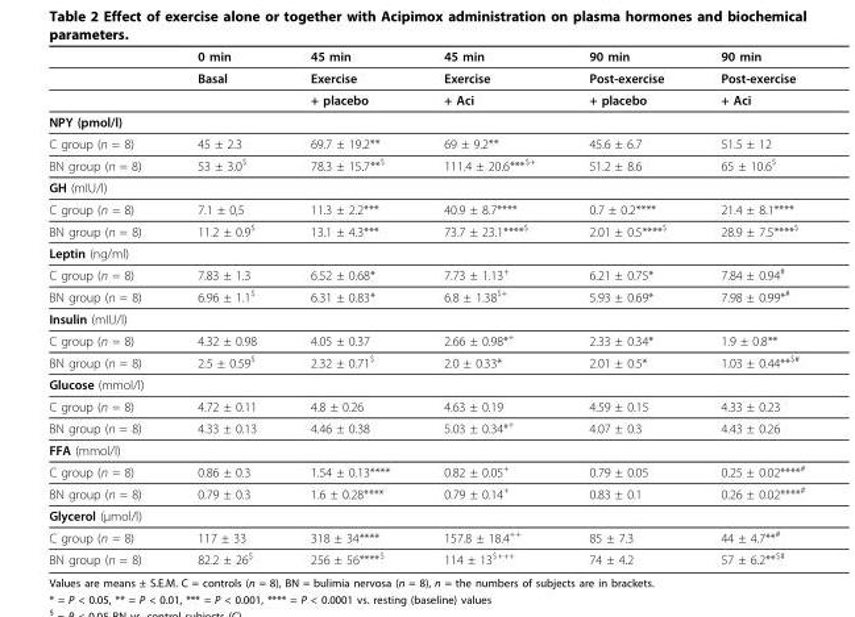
<table><thead><tr><td></td><td>0 min</td><td>45 min</td><td>45 min</td><td>90 min</td><td>90 min</td></tr></thead><tbody><tr><td></td><td>Basal</td><td>Exercise</td><td>Exercise</td><td>Post-exercise</td><td>Post-exercise</td></tr><tr><td></td><td></td><td>+ placebo</td><td>+ Aci</td><td>+ placebo</td><td>+ Aci</td></tr><tr><td colspan="6">NPY (pmol/l)</td></tr><tr><td>C group (n = 8)</td><td>45 ± 2.3</td><td>69.7 ± 19.2**</td><td>69 ± 9.2**</td><td>45.6 ± 6.7</td><td>51.5 ± 12</td></tr><tr><td>BN group (n = 8)</td><td>53 ± 3.0<sup>$</sup></td><td>78.3 ± 15.7**<sup>$</sup></td><td>111.4 ± 20.6***<sup>$+</sup></td><td>51.2 ± 8.6</td><td>65 ± 10.6<sup>$</sup></td></tr><tr><td colspan="6">GH (mIU/l)</td></tr><tr><td>C group (n = 8)</td><td>7.1 ± 0,5</td><td>11.3 ± 2.2***</td><td>40.9 ± 8.7****</td><td>0.7 ± 0.2****</td><td>21.4 ± 8.1****</td></tr><tr><td>BN group (n = 8)</td><td>11.2 ± 0.9<sup>$</sup></td><td>13.1 ± 4.3***</td><td>73.7 ± 23.1****<sup>$</sup></td><td>2.01 ± 0.5****<sup>$</sup></td><td>28.9 ± 7.5****<sup>$</sup></td></tr><tr><td colspan="6">Leptin (ng/ml)</td></tr><tr><td>C group (n = 8)</td><td>7.83 ± 1.3</td><td>6.52 ± 0.68*</td><td>7.73 ± 1.13<sup>+</sup></td><td>6.21 ± 0.75*</td><td>7.84 ± 0.94<sup>#</sup></td></tr><tr><td>BN group (n = 8)</td><td>6.96 ± 1.1<sup>$</sup></td><td>6.31 ± 0.83*</td><td>6.8 ± 1.38<sup>$+</sup></td><td>5.93 ± 0.69*</td><td>7.98 ± 0.99*<sup>#</sup></td></tr><tr><td colspan="6">Insulin (mIU/l)</td></tr><tr><td>C group (n = 8)</td><td>4.32 ± 0.98</td><td>4.05 ± 0.37</td><td>2.66 ± 0.98*<sup>+</sup></td><td>2.33 ± 0.34*</td><td>1.9 ± 0.8**</td></tr><tr><td>BN group (n = 8)</td><td>2.5 ± 0.59<sup>$</sup></td><td>2.32 ± 0.71<sup>$</sup></td><td>2.0 ± 0.33*</td><td>2.01 ± 0.5*</td><td>1.03 ± 0.44**<sup>$#</sup></td></tr><tr><td colspan="6">Glucose (mmol/l)</td></tr><tr><td>C group (n = 8)</td><td>4.72 ± 0.11</td><td>4.8 ± 0.26</td><td>4.63 ± 0.19</td><td>4.59 ± 0.15</td><td>4.33 ± 0.23</td></tr><tr><td>BN group (n = 8)</td><td>4.33 ± 0.13</td><td>4.46 ± 0.38</td><td>5.03 ± 0.34*<sup>+</sup></td><td>4.07 ± 0.3</td><td>4.43 ± 0.26</td></tr><tr><td colspan="6">FFA (mmol/l)</td></tr><tr><td>C group (n = 8)</td><td>0.86 ± 0.3</td><td>1.54 ± 0.13****</td><td>0.82 ± 0.05<sup>+</sup></td><td>0.79 ± 0.05</td><td>0.25 ± 0.02****<sup>#</sup></td></tr><tr><td>BN group (n = 8)</td><td>0.79 ± 0.3</td><td>1.6 ± 0.28****</td><td>0.79 ± 0.14<sup>+</sup></td><td>0.83 ± 0.1</td><td>0.26 ± 0.02****<sup>#</sup></td></tr><tr><td colspan="6">Glycerol (μmol/l)</td></tr><tr><td>C group (n = 8)</td><td>117 ± 33</td><td>318 ± 34****</td><td>157.8 ± 18.4<sup>++</sup></td><td>85 ± 7.3</td><td>44 ± 4.7**<sup>#</sup></td></tr><tr><td>BN group (n = 8)</td><td>82.2 ± 26<sup>$</sup></td><td>256 ± 56****<sup>$</sup></td><td>114 ± 13<sup>$+++</sup></td><td>74 ± 4.2</td><td>57 ± 6.2**<sup>$#</sup></td></tr></tbody></table>